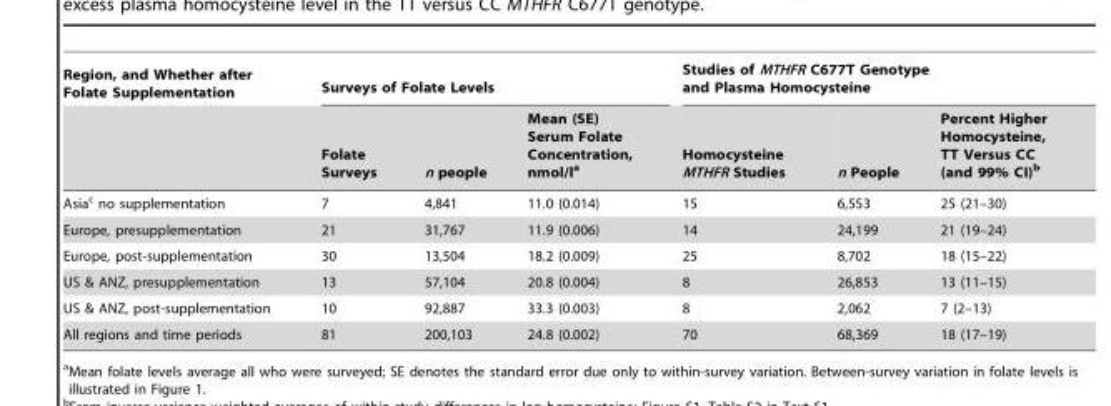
<table><thead><tr><td rowspan="2">Region, and Whether after Folate Supplementation</td><td colspan="3">Surveys of Folate Levels</td><td colspan="3">Studies of MTHFR C677T Genotype and Plasma Homocysteine</td></tr><tr><td>Folate Surveys</td><td>n people</td><td>Mean (SE) Serum Folate Concentration, nmol/l<sup>a</sup></td><td>Homocysteine MTHFR Studies</td><td>n People</td><td>Percent Higher Homocysteine, TT Versus CC (and 99% CI)<sup>b</sup></td></tr></thead><tbody><tr><td>Asia<sup>c</sup> no supplementation</td><td>7</td><td>4,841</td><td>11.0 (0.014)</td><td>15</td><td>6,553</td><td>25 (21–30)</td></tr><tr><td>Europe, presupplementation</td><td>21</td><td>31,767</td><td>11.9 (0.006)</td><td>14</td><td>24,199</td><td>21 (19–24)</td></tr><tr><td>Europe, post-supplementation</td><td>30</td><td>13,504</td><td>18.2 (0.009)</td><td>25</td><td>8,702</td><td>18 (15–22)</td></tr><tr><td>US &amp; ANZ, presupplementation</td><td>13</td><td>57,104</td><td>20.8 (0.004)</td><td>8</td><td>26,853</td><td>13 (11–15)</td></tr><tr><td>US &amp; ANZ, post-supplementation</td><td>10</td><td>92,887</td><td>33.3 (0.003)</td><td>8</td><td>2,062</td><td>7 (2–13)</td></tr><tr><td>All regions and time periods</td><td>81</td><td>200,103</td><td>24.8 (0.002)</td><td>70</td><td>68,369</td><td>18 (17–19)</td></tr></tbody></table>